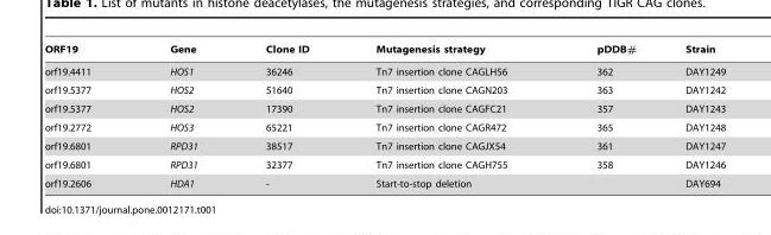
<table><thead><tr><td>ORF19</td><td>Gene</td><td>Clone ID</td><td>Mutagenesis strategy</td><td>pDDB#</td><td>Strain</td></tr></thead><tbody><tr><td>orf19.4411</td><td>HOS1</td><td>36246</td><td>Tn7 insertion clone CAGLH56</td><td>362</td><td>DAY1249</td></tr><tr><td>orf19.5377</td><td>HOS2</td><td>51640</td><td>Tn7 insertion clone CAGN203</td><td>363</td><td>DAY1242</td></tr><tr><td>orf19.5377</td><td>HOS2</td><td>17390</td><td>Tn7 insertion clone CAGFC21</td><td>357</td><td>DAY1243</td></tr><tr><td>orf19.2772</td><td>HOS3</td><td>65221</td><td>Tn7 insertion clone CAGR472</td><td>365</td><td>DAY1248</td></tr><tr><td>orf19.6801</td><td>RPD31</td><td>38517</td><td>Tn7 insertion clone CAGJX54</td><td>361</td><td>DAY1247</td></tr><tr><td>orf19.6801</td><td>RPD31</td><td>32377</td><td>Tn7 insertion clone CAGH755</td><td>358</td><td>DAY1246</td></tr><tr><td>orf19.2606</td><td>HDA1</td><td>-</td><td>Start-to-stop deletion</td><td></td><td>DAY694</td></tr></tbody></table>